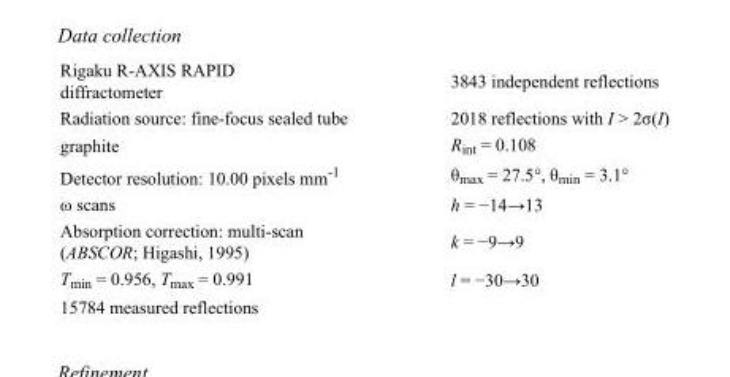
<table><tbody><tr><td>Rigaku R-AXIS RAPID diffractometer</td><td>3843 independent reflections</td></tr><tr><td>Radiation source: fine-focus sealed tube</td><td>2018 reflections with I &gt; 2σ(I)</td></tr><tr><td>graphite</td><td>R<sub>int</sub> = 0.108</td></tr><tr><td>Detector resolution: 10.00 pixels mm<sup>-1</sup></td><td>θ<sub>max</sub> = 27.5°, θ<sub>min</sub> = 3.1°</td></tr><tr><td>ω scans</td><td>h = −14→13</td></tr><tr><td>Absorption correction: multi-scan (ABSCOR; Higashi, 1995)</td><td>k = −9→9</td></tr><tr><td>T<sub>min</sub> = 0.956, T<sub>max</sub> = 0.991</td><td>l = −30→30</td></tr><tr><td>15784 measured reflections</td><td></td></tr></tbody></table>